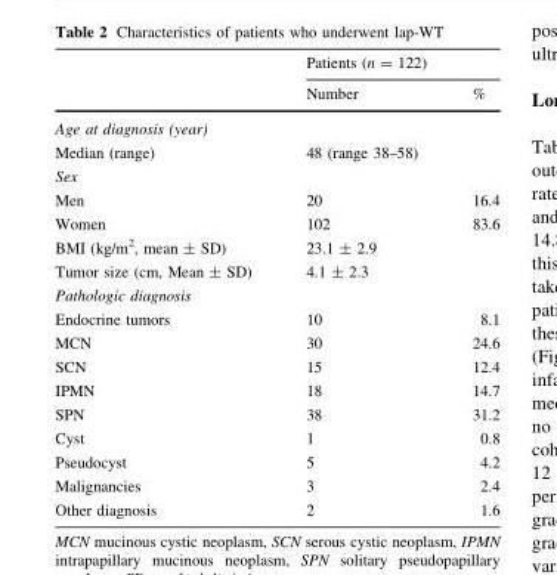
<table><thead><tr><td rowspan="2"></td><td colspan="2">Patients (n = 122)</td></tr><tr><td>Number</td><td>%</td></tr></thead><tbody><tr><td colspan="3">Age at diagnosis (year)</td></tr><tr><td>Median (range)</td><td>48 (range 38–58)</td><td></td></tr><tr><td colspan="3">Sex</td></tr><tr><td>Men</td><td>20</td><td>16.4</td></tr><tr><td>Women</td><td>102</td><td>83.6</td></tr><tr><td>BMI (kg/m<sup>2</sup>, mean ± SD)</td><td>23.1 ± 2.9</td><td></td></tr><tr><td>Tumor size (cm, Mean ± SD)</td><td>4.1 ± 2.3</td><td></td></tr><tr><td colspan="3">Pathologic diagnosis</td></tr><tr><td>Endocrine tumors</td><td>10</td><td>8.1</td></tr><tr><td>MCN</td><td>30</td><td>24.6</td></tr><tr><td>SCN</td><td>15</td><td>12.4</td></tr><tr><td>IPMN</td><td>18</td><td>14.7</td></tr><tr><td>SPN</td><td>38</td><td>31.2</td></tr><tr><td>Cyst</td><td>1</td><td>0.8</td></tr><tr><td>Pseudocyst</td><td>5</td><td>4.2</td></tr><tr><td>Malignancies</td><td>3</td><td>2.4</td></tr><tr><td>Other diagnosis</td><td>2</td><td>1.6</td></tr></tbody></table>